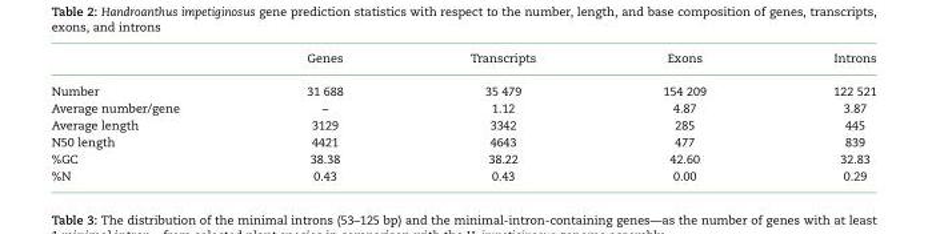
<table><thead><tr><td></td><td>Genes</td><td>Transcripts</td><td>Exons</td><td>Introns</td></tr></thead><tbody><tr><td>Number</td><td>31 688</td><td>35 479</td><td>154 209</td><td>122 521</td></tr><tr><td>Average number/gene</td><td>–</td><td>1.12</td><td>4.87</td><td>3.87</td></tr><tr><td>Average length</td><td>3129</td><td>3342</td><td>285</td><td>445</td></tr><tr><td>N50 length</td><td>4421</td><td>4643</td><td>477</td><td>839</td></tr><tr><td>%GC</td><td>38.38</td><td>38.22</td><td>42.60</td><td>32.83</td></tr><tr><td>%N</td><td>0.43</td><td>0.43</td><td>0.00</td><td>0.29</td></tr></tbody></table>